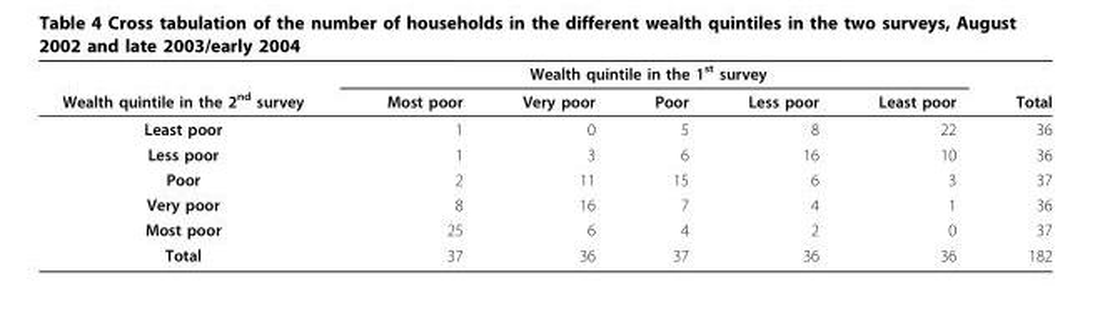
<table><thead><tr><td rowspan="2">Wealth quintile in the 2<sup>nd</sup> survey</td><td colspan="5">Wealth quintile in the 1<sup>st</sup> survey</td><td rowspan="2">Total</td></tr><tr><td>Most poor</td><td>Very poor</td><td>Poor</td><td>Less poor</td><td>Least poor</td></tr></thead><tbody><tr><td>Least poor</td><td>1</td><td>0</td><td>5</td><td>8</td><td>22</td><td>36</td></tr><tr><td>Less poor</td><td>1</td><td>3</td><td>6</td><td>16</td><td>10</td><td>36</td></tr><tr><td>Poor</td><td>2</td><td>11</td><td>15</td><td>6</td><td>3</td><td>37</td></tr><tr><td>Very poor</td><td>8</td><td>16</td><td>7</td><td>4</td><td>1</td><td>36</td></tr><tr><td>Most poor</td><td>25</td><td>6</td><td>4</td><td>2</td><td>0</td><td>37</td></tr><tr><td>Total</td><td>37</td><td>36</td><td>37</td><td>36</td><td>36</td><td>182</td></tr></tbody></table>